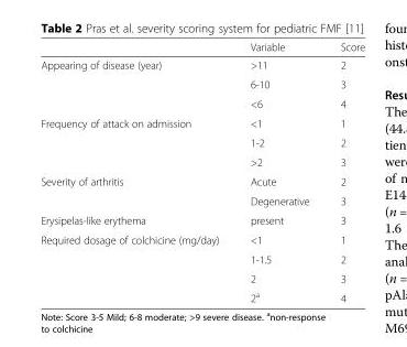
<table><thead><tr><td></td><td>Variable</td><td>Score</td></tr></thead><tbody><tr><td rowspan="3">Appearing of disease (year)</td><td>&gt;11</td><td>2</td></tr><tr><td>6-10</td><td>3</td></tr><tr><td>&lt;6</td><td>4</td></tr><tr><td rowspan="3">Frequency of attack on admission</td><td>&lt;1</td><td>1</td></tr><tr><td>1-2</td><td>2</td></tr><tr><td>&gt;2</td><td>3</td></tr><tr><td rowspan="2">Severity of arthritis</td><td>Acute</td><td>2</td></tr><tr><td>Degenerative</td><td>3</td></tr><tr><td>Erysipelas-like erythema</td><td>present</td><td>3</td></tr><tr><td rowspan="4">Required dosage of colchicine (mg/day)</td><td>&lt;1</td><td>1</td></tr><tr><td>1-1.5</td><td>2</td></tr><tr><td>2</td><td>3</td></tr><tr><td>2<sup>a</sup></td><td>4</td></tr></tbody></table>